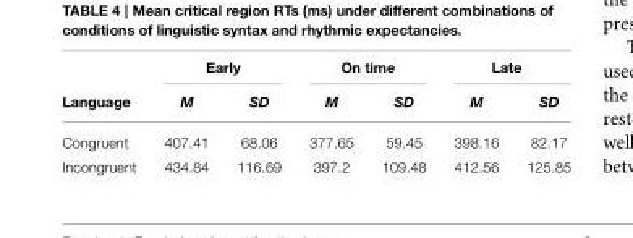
<table><thead><tr><td rowspan="2">Language</td><td colspan="2">Early</td><td colspan="2">On time</td><td colspan="2">Late</td></tr><tr><td>M</td><td>SD</td><td>M</td><td>SD</td><td>M</td><td>SD</td></tr></thead><tbody><tr><td>Congruent</td><td>407.41</td><td>68.06</td><td>377.65</td><td>59.45</td><td>398.16</td><td>82.17</td></tr><tr><td>Incongruent</td><td>434.84</td><td>116.69</td><td>397.2</td><td>109.48</td><td>412.56</td><td>125.85</td></tr></tbody></table>